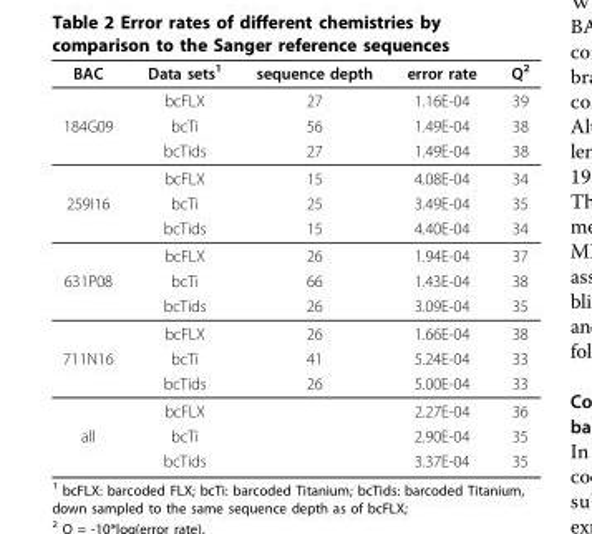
<table><thead><tr><td>BAC</td><td>Data sets<sup>1</sup></td><td>sequence depth</td><td>error rate</td><td>Q<sup>2</sup></td></tr></thead><tbody><tr><td></td><td>bcFLX</td><td>27</td><td>1.16E-04</td><td>39</td></tr><tr><td rowspan="3">184G09</td><td>bcTi</td><td>56</td><td>1.49E-04</td><td>38</td></tr><tr><td>bcTids</td><td>27</td><td>1.49E-04</td><td>38</td></tr><tr><td>bcFLX</td><td>15</td><td>4.08E-04</td><td>34</td></tr><tr><td rowspan="3">259I16</td><td>bcTi</td><td>25</td><td>3.49E-04</td><td>35</td></tr><tr><td>bcTids</td><td>15</td><td>4.40E-04</td><td>34</td></tr><tr><td>bcFLX</td><td>26</td><td>1.94E-04</td><td>37</td></tr><tr><td rowspan="3">631P08</td><td>bcTi</td><td>66</td><td>1.43E-04</td><td>38</td></tr><tr><td>bcTids</td><td>26</td><td>3.09E-04</td><td>35</td></tr><tr><td>bcFLX</td><td>26</td><td>1.66E-04</td><td>38</td></tr><tr><td rowspan="3">711N16</td><td>bcTi</td><td>41</td><td>5.24E-04</td><td>33</td></tr><tr><td>bcTids</td><td>26</td><td>5.00E-04</td><td>33</td></tr><tr><td>bcFLX</td><td></td><td>2.27E-04</td><td>36</td></tr><tr><td rowspan="2">all</td><td>bcTi</td><td></td><td>2.90E-04</td><td>35</td></tr><tr><td>bcTids</td><td></td><td>3.37E-04</td><td>35</td></tr></tbody></table>